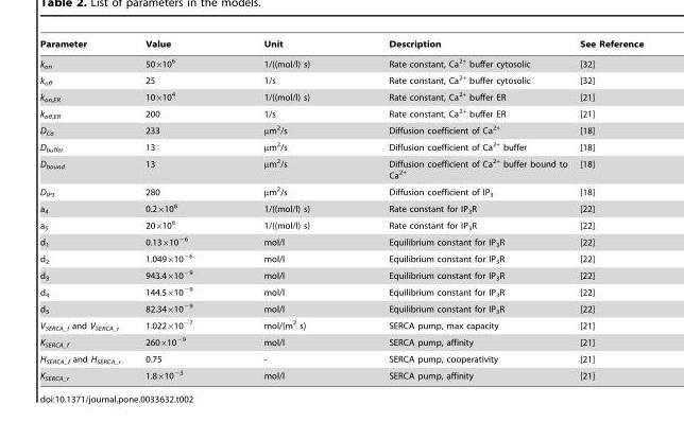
<table><thead><tr><td>Parameter</td><td>Value</td><td>Unit</td><td>Description</td><td>See Reference</td></tr></thead><tbody><tr><td>k<sub>on</sub></td><td>50×10<sup>6</sup></td><td>1/((mol/l) s)</td><td>Rate constant, Ca<sup>2+</sup> buffer cytosolic</td><td>[32]</td></tr><tr><td>k<sub>off</sub></td><td>25</td><td>1/s</td><td>Rate constant, Ca<sup>2+</sup> buffer cytosolic</td><td>[32]</td></tr><tr><td>k<sub>on,ER</sub></td><td>10×10<sup>4</sup></td><td>1/((mol/l) s)</td><td>Rate constant, Ca<sup>2+</sup> buffer ER</td><td>[21]</td></tr><tr><td>k<sub>off,ER</sub></td><td>200</td><td>1/s</td><td>Rate constant, Ca<sup>2+</sup> buffer ER</td><td>[21]</td></tr><tr><td>D<sub>Ca</sub></td><td>233</td><td>µm<sup>2</sup>/s</td><td>Diffusion coefficient of Ca<sup>2+</sup></td><td>[18]</td></tr><tr><td>D<sub>buffer</sub></td><td>13</td><td>µm<sup>2</sup>/s</td><td>Diffusion coefficient of Ca<sup>2+</sup> buffer</td><td>[18]</td></tr><tr><td>D<sub>bound</sub></td><td>13</td><td>µm<sup>2</sup>/s</td><td>Diffusion coefficient of Ca<sup>2+</sup> buffer bound to Ca<sup>2+</sup></td><td>[18]</td></tr><tr><td>D<sub>IP3</sub></td><td>280</td><td>µm<sup>2</sup>/s</td><td>Diffusion coefficient of IP<sub>3</sub></td><td>[18]</td></tr><tr><td>a<sub>4</sub></td><td>0.2×10<sup>6</sup></td><td>1/((mol/l) s)</td><td>Rate constant for IP<sub>3</sub>R</td><td>[22]</td></tr><tr><td>a<sub>5</sub></td><td>20×10<sup>6</sup></td><td>1/((mol/l) s)</td><td>Rate constant for IP<sub>3</sub>R</td><td>[22]</td></tr><tr><td>d<sub>1</sub></td><td>0.13×10<sup>−6</sup></td><td>mol/l</td><td>Equilibrium constant for IP<sub>3</sub>R</td><td>[22]</td></tr><tr><td>d<sub>2</sub></td><td>1.049×10<sup>−6</sup></td><td>mol/l</td><td>Equilibrium constant for IP<sub>3</sub>R</td><td>[22]</td></tr><tr><td>d<sub>3</sub></td><td>943.4×10<sup>−9</sup></td><td>mol/l</td><td>Equilibrium constant for IP<sub>3</sub>R</td><td>[22]</td></tr><tr><td>d<sub>4</sub></td><td>144.5×10<sup>−9</sup></td><td>mol/l</td><td>Equilibrium constant for IP<sub>3</sub>R</td><td>[22]</td></tr><tr><td>d<sub>5</sub></td><td>82.34×10<sup>−9</sup></td><td>mol/l</td><td>Equilibrium constant for IP<sub>3</sub>R</td><td>[22]</td></tr><tr><td>V<sub>SERCA_f</sub> and V<sub>SERCA_r</sub></td><td>1.022×10<sup>−7</sup></td><td>mol/(m<sup>2</sup> s)</td><td>SERCA pump, max capacity</td><td>[21]</td></tr><tr><td>K<sub>SERCA_f</sub></td><td>260×10<sup>−9</sup></td><td>mol/l</td><td>SERCA pump, affinity</td><td>[21]</td></tr><tr><td>H<sub>SERCA_f</sub> and H<sub>SERCA_r</sub></td><td>0.75</td><td>-</td><td>SERCA pump, cooperativity</td><td>[21]</td></tr><tr><td>K<sub>SERCA_r</sub></td><td>1.8×10<sup>−3</sup></td><td>mol/l</td><td>SERCA pump, affinity</td><td>[21]</td></tr></tbody></table>